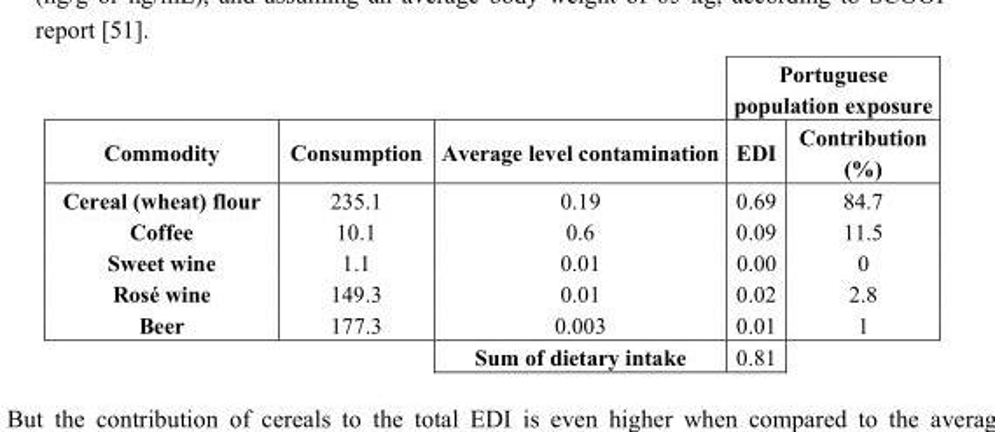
<table><thead><tr><td rowspan="2">Commodity</td><td rowspan="2">Consumption</td><td rowspan="2">Average level contamination</td><td colspan="2">Portuguese population exposure</td></tr><tr><td>EDI</td><td>Contribution (%)</td></tr></thead><tbody><tr><td>Cereal (wheat) flour</td><td>235.1</td><td>0.19</td><td>0.69</td><td>84.7</td></tr><tr><td>Coffee</td><td>10.1</td><td>0.6</td><td>0.09</td><td>11.5</td></tr><tr><td>Sweet wine</td><td>1.1</td><td>0.01</td><td>0.00</td><td>0</td></tr><tr><td>Rosé wine</td><td>149.3</td><td>0.01</td><td>0.02</td><td>2.8</td></tr><tr><td rowspan="2">Beer</td><td>177.3</td><td>0.003</td><td>0.01</td><td>1</td></tr><tr><td></td><td>Sum of dietary intake</td><td>0.81</td><td></td></tr></tbody></table>